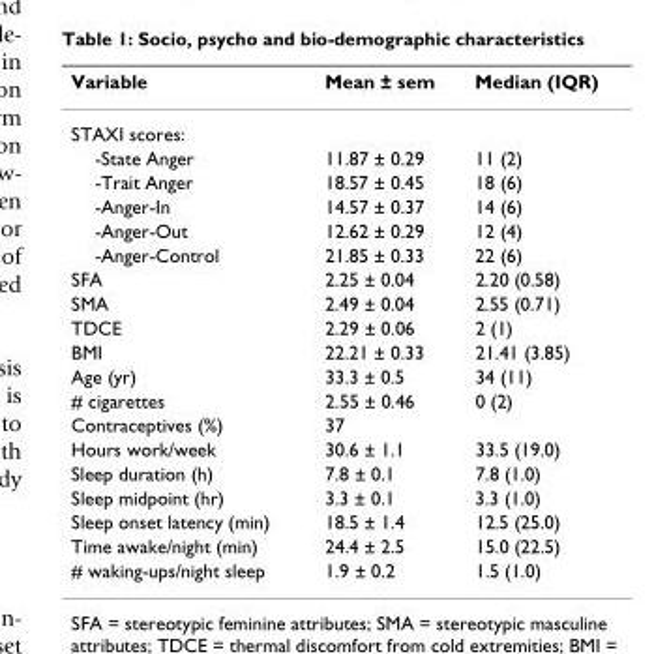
<table><thead><tr><td>Variable</td><td>Mean ± sem</td><td>Median (IQR)</td></tr></thead><tbody><tr><td colspan="3">STAXI scores:</td></tr><tr><td>-State Anger</td><td>11.87 ± 0.29</td><td>11 (2)</td></tr><tr><td>-Trait Anger</td><td>18.57 ± 0.45</td><td>18 (6)</td></tr><tr><td>-Anger-In</td><td>14.57 ± 0.37</td><td>14 (6)</td></tr><tr><td>-Anger-Out</td><td>12.62 ± 0.29</td><td>12 (4)</td></tr><tr><td>-Anger-Control</td><td>21.85 ± 0.33</td><td>22 (6)</td></tr><tr><td>SFA</td><td>2.25 ± 0.04</td><td>2.20 (0.58)</td></tr><tr><td>SMA</td><td>2.49 ± 0.04</td><td>2.55 (0.71)</td></tr><tr><td>TDCE</td><td>2.29 ± 0.06</td><td>2 (1)</td></tr><tr><td>BMI</td><td>22.21 ± 0.33</td><td>21.41 (3.85)</td></tr><tr><td>Age (yr)</td><td>33.3 ± 0.5</td><td>34 (11)</td></tr><tr><td># cigarettes</td><td>2.55 ± 0.46</td><td>0 (2)</td></tr><tr><td>Contraceptives (%)</td><td>37</td><td></td></tr><tr><td>Hours work/week</td><td>30.6 ± 1.1</td><td>33.5 (19.0)</td></tr><tr><td>Sleep duration (h)</td><td>7.8 ± 0.1</td><td>7.8 (1.0)</td></tr><tr><td>Sleep midpoint (hr)</td><td>3.3 ± 0.1</td><td>3.3 (1.0)</td></tr><tr><td>Sleep onset latency (min)</td><td>18.5 ± 1.4</td><td>12.5 (25.0)</td></tr><tr><td>Time awake/night (min)</td><td>24.4 ± 2.5</td><td>15.0 (22.5)</td></tr><tr><td># waking-ups/night sleep</td><td>1.9 ± 0.2</td><td>1.5 (1.0)</td></tr></tbody></table>